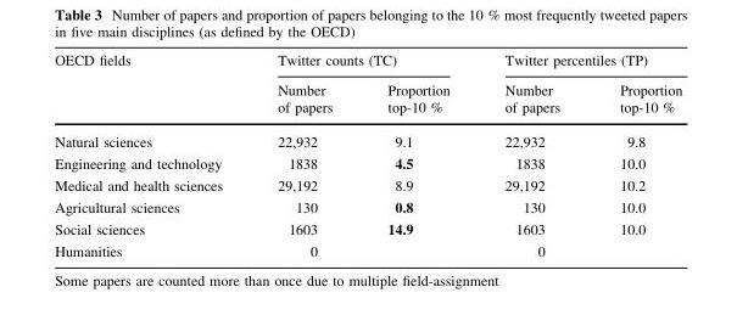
<table><thead><tr><td rowspan="2">OECD fields</td><td colspan="2">Twitter counts (TC)</td><td colspan="2">Twitter percentiles (TP)</td></tr><tr><td>Number of papers</td><td>Proportion top-10 %</td><td>Number of papers</td><td>Proportion top-10 %</td></tr></thead><tbody><tr><td>Natural sciences</td><td>22,932</td><td>9.1</td><td>22,932</td><td>9.8</td></tr><tr><td>Engineering and technology</td><td>1838</td><td>4.5</td><td>1838</td><td>10.0</td></tr><tr><td>Medical and health sciences</td><td>29,192</td><td>8.9</td><td>29,192</td><td>10.2</td></tr><tr><td>Agricultural sciences</td><td>130</td><td>0.8</td><td>130</td><td>10.0</td></tr><tr><td>Social sciences</td><td>1603</td><td>14.9</td><td>1603</td><td>10.0</td></tr><tr><td>Humanities</td><td>0</td><td></td><td>0</td><td></td></tr></tbody></table>